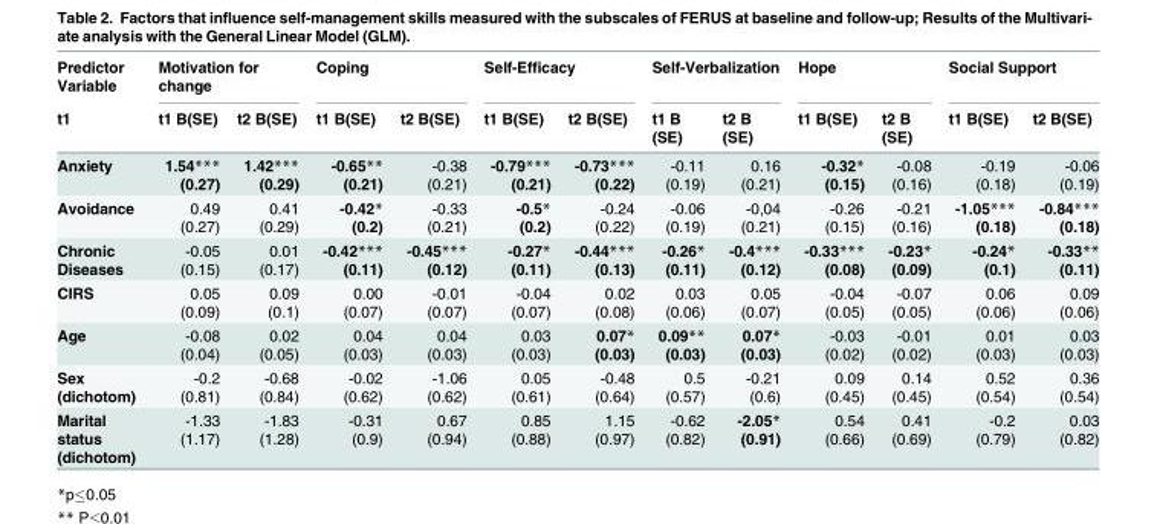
<table><thead><tr><td rowspan="2">Predictor Variable t1</td><td colspan="2">Motivation for change</td><td colspan="2">Coping</td><td colspan="2">Self-Efficacy</td><td colspan="2">Self-Verbalization</td><td colspan="2">Hope</td><td colspan="2">Social Support</td></tr><tr><td>t1 B(SE)</td><td>t2 B(SE)</td><td>t1 B(SE)</td><td>t2 B(SE)</td><td>t1 B(SE)</td><td>t2 B(SE)</td><td>t1 B (SE)</td><td>t2 B (SE)</td><td>t1 B(SE)</td><td>t2 B (SE)</td><td>t1 B(SE)</td><td>t2 B(SE)</td></tr></thead><tbody><tr><td>Anxiety</td><td>1.54*** (0.27)</td><td>1.42*** (0.29)</td><td>-0.65** (0.21)</td><td>-0.38 (0.21)</td><td>-0.79*** (0.21)</td><td>-0.73*** (0.22)</td><td>-0.11 (0.19)</td><td>0.16 (0.21)</td><td>-0.32* (0.15)</td><td>-0.08 (0.16)</td><td>-0.19 (0.18)</td><td>-0.06 (0.19)</td></tr><tr><td>Avoidance</td><td>0.49 (0.27)</td><td>0.41 (0.29)</td><td>-0.42* (0.2)</td><td>-0.33 (0.21)</td><td>-0.5* (0.2)</td><td>-0.24 (0.22)</td><td>-0.06 (0.19)</td><td>-0,04 (0.21)</td><td>-0.26 (0.15)</td><td>-0.21 (0.16)</td><td>-1.05*** (0.18)</td><td>-0.84*** (0.18)</td></tr><tr><td>Chronic Diseases</td><td>-0.05 (0.15)</td><td>0.01 (0.17)</td><td>-0.42*** (0.11)</td><td>-0.45*** (0.12)</td><td>-0.27* (0.11)</td><td>-0.44*** (0.13)</td><td>-0.26* (0.11)</td><td>-0.4*** (0.12)</td><td>-0.33*** (0.08)</td><td>-0.23* (0.09)</td><td>-0.24* (0.1)</td><td>-0.33** (0.11)</td></tr><tr><td>CIRS</td><td>0.05 (0.09)</td><td>0.09 (0.1)</td><td>0.00 (0.07)</td><td>-0.01 (0.07)</td><td>-0.04 (0.07)</td><td>0.02 (0.08)</td><td>0.03 (0.06)</td><td>0.05 (0.07)</td><td>-0.04 (0.05)</td><td>-0.07 (0.05)</td><td>0.06 (0.06)</td><td>0.09 (0.06)</td></tr><tr><td>Age</td><td>-0.08 (0.04)</td><td>0.02 (0.05)</td><td>0.04 (0.03)</td><td>0.04 (0.03)</td><td>0.03 (0.03)</td><td>0.07* (0.03)</td><td>0.09** (0.03)</td><td>0.07* (0.03)</td><td>-0.03 (0.02)</td><td>-0.01 (0.02)</td><td>0.01 (0.03)</td><td>0.03 (0.03)</td></tr><tr><td>Sex (dichotom)</td><td>-0.2 (0.81)</td><td>-0.68 (0.84)</td><td>-0.02 (0.62)</td><td>-1.06 (0.62)</td><td>0.05 (0.61)</td><td>-0.48 (0.64)</td><td>0.5 (0.57)</td><td>-0.21 (0.6)</td><td>0.09 (0.45)</td><td>0.14 (0.45)</td><td>0.52 (0.54)</td><td>0.36 (0.54)</td></tr><tr><td>Marital status (dichotom)</td><td>-1.33 (1.17)</td><td>-1.83 (1.28)</td><td>-0.31 (0.9)</td><td>0.67 (0.94)</td><td>0.85 (0.88)</td><td>1.15 (0.97)</td><td>-0.62 (0.82)</td><td>-2.05* (0.91)</td><td>0.54 (0.66)</td><td>0.41 (0.69)</td><td>-0.2 (0.79)</td><td>0.03 (0.82)</td></tr></tbody></table>